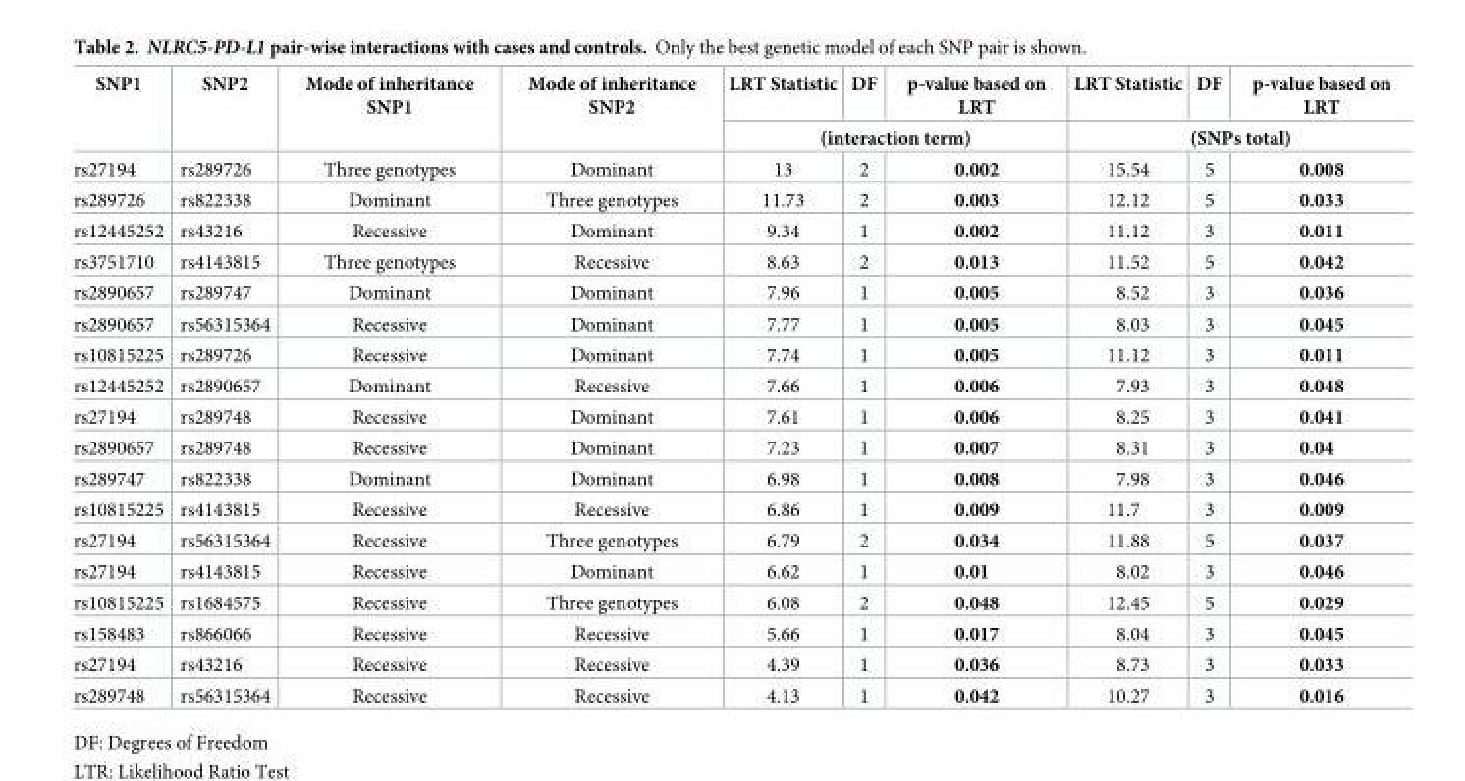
<table><thead><tr><td rowspan="2">SNP1</td><td rowspan="2">SNP2</td><td rowspan="2">Mode of inheritance SNP1</td><td rowspan="2">Mode of inheritance SNP2</td><td>LRT Statistic</td><td>DF</td><td>p-value based on LRT</td><td>LRT Statistic</td><td>DF</td><td>p-value based on LRT</td></tr><tr><td colspan="3">(interaction term)</td><td colspan="3">(SNPs total)</td></tr></thead><tbody><tr><td>rs27194</td><td>rs289726</td><td>Three genotypes</td><td>Dominant</td><td>13</td><td>2</td><td>0.002</td><td>15.54</td><td>5</td><td>0.008</td></tr><tr><td>rs289726</td><td>rs822338</td><td>Dominant</td><td>Three genotypes</td><td>11.73</td><td>2</td><td>0.003</td><td>12.12</td><td>5</td><td>0.033</td></tr><tr><td>rs12445252</td><td>rs43216</td><td>Recessive</td><td>Dominant</td><td>9.34</td><td>1</td><td>0.002</td><td>11.12</td><td>3</td><td>0.011</td></tr><tr><td>rs3751710</td><td>rs4143815</td><td>Three genotypes</td><td>Recessive</td><td>8.63</td><td>2</td><td>0.013</td><td>11.52</td><td>5</td><td>0.042</td></tr><tr><td>rs2890657</td><td>rs289747</td><td>Dominant</td><td>Dominant</td><td>7.96</td><td>1</td><td>0.005</td><td>8.52</td><td>3</td><td>0.036</td></tr><tr><td>rs2890657</td><td>rs56315364</td><td>Recessive</td><td>Dominant</td><td>7.77</td><td>1</td><td>0.005</td><td>8.03</td><td>3</td><td>0.045</td></tr><tr><td>rs10815225</td><td>rs289726</td><td>Recessive</td><td>Dominant</td><td>7.74</td><td>1</td><td>0.005</td><td>11.12</td><td>3</td><td>0.011</td></tr><tr><td>rs12445252</td><td>rs2890657</td><td>Dominant</td><td>Recessive</td><td>7.66</td><td>1</td><td>0.006</td><td>7.93</td><td>3</td><td>0.048</td></tr><tr><td>rs27194</td><td>rs289748</td><td>Recessive</td><td>Dominant</td><td>7.61</td><td>1</td><td>0.006</td><td>8.25</td><td>3</td><td>0.041</td></tr><tr><td>rs2890657</td><td>rs289748</td><td>Recessive</td><td>Dominant</td><td>7.23</td><td>1</td><td>0.007</td><td>8.31</td><td>3</td><td>0.04</td></tr><tr><td>rs289747</td><td>rs822338</td><td>Dominant</td><td>Dominant</td><td>6.98</td><td>1</td><td>0.008</td><td>7.98</td><td>3</td><td>0.046</td></tr><tr><td>rs10815225</td><td>rs4143815</td><td>Recessive</td><td>Recessive</td><td>6.86</td><td>1</td><td>0.009</td><td>11.7</td><td>3</td><td>0.009</td></tr><tr><td>rs27194</td><td>rs56315364</td><td>Recessive</td><td>Three genotypes</td><td>6.79</td><td>2</td><td>0.034</td><td>11.88</td><td>5</td><td>0.037</td></tr><tr><td>rs27194</td><td>rs4143815</td><td>Recessive</td><td>Dominant</td><td>6.62</td><td>1</td><td>0.01</td><td>8.02</td><td>3</td><td>0.046</td></tr><tr><td>rs10815225</td><td>rs1684575</td><td>Recessive</td><td>Three genotypes</td><td>6.08</td><td>2</td><td>0.048</td><td>12.45</td><td>5</td><td>0.029</td></tr><tr><td>rs158483</td><td>rs866066</td><td>Recessive</td><td>Recessive</td><td>5.66</td><td>1</td><td>0.017</td><td>8.04</td><td>3</td><td>0.045</td></tr><tr><td>rs27194</td><td>rs43216</td><td>Recessive</td><td>Recessive</td><td>4.39</td><td>1</td><td>0.036</td><td>8.73</td><td>3</td><td>0.033</td></tr><tr><td>rs289748</td><td>rs56315364</td><td>Recessive</td><td>Recessive</td><td>4.13</td><td>1</td><td>0.042</td><td>10.27</td><td>3</td><td>0.016</td></tr></tbody></table>